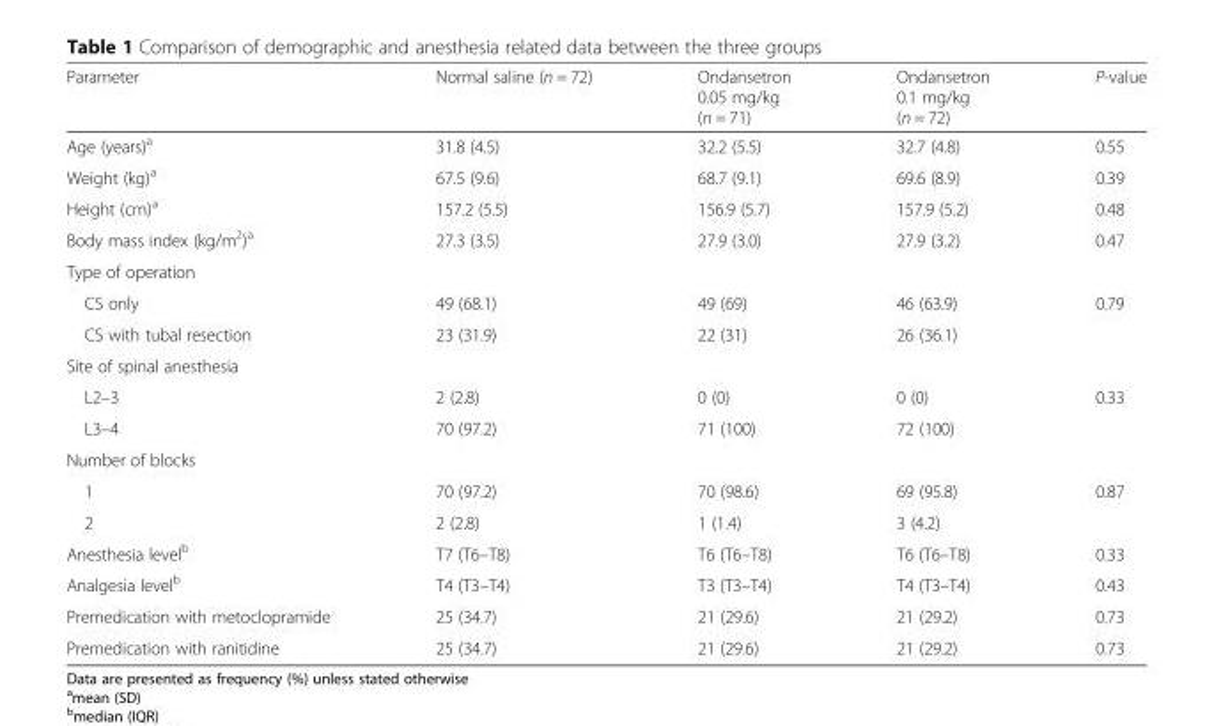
<table><thead><tr><td>Parameter</td><td>Normal saline (n = 72)</td><td>Ondansetron 0.05 mg/kg (n = 71)</td><td>Ondansetron 0.1 mg/kg (n = 72)</td><td>P-value</td></tr></thead><tbody><tr><td>Age (years)<sup>a</sup></td><td>31.8 (4.5)</td><td>32.2 (5.5)</td><td>32.7 (4.8)</td><td>0.55</td></tr><tr><td>Weight (kg)<sup>a</sup></td><td>67.5 (9.6)</td><td>68.7 (9.1)</td><td>69.6 (8.9)</td><td>0.39</td></tr><tr><td>Height (cm)<sup>a</sup></td><td>157.2 (5.5)</td><td>156.9 (5.7)</td><td>157.9 (5.2)</td><td>0.48</td></tr><tr><td>Body mass index (kg/m<sup>2</sup>)<sup>a</sup></td><td>27.3 (3.5)</td><td>27.9 (3.0)</td><td>27.9 (3.2)</td><td>0.47</td></tr><tr><td colspan="5">Type of operation</td></tr><tr><td>CS only</td><td>49 (68.1)</td><td>49 (69)</td><td>46 (63.9)</td><td>0.79</td></tr><tr><td>CS with tubal resection</td><td>23 (31.9)</td><td>22 (31)</td><td>26 (36.1)</td><td></td></tr><tr><td colspan="5">Site of spinal anesthesia</td></tr><tr><td>L2–3</td><td>2 (2.8)</td><td>0 (0)</td><td>0 (0)</td><td>0.33</td></tr><tr><td>L3–4</td><td>70 (97.2)</td><td>71 (100)</td><td>72 (100)</td><td></td></tr><tr><td colspan="5">Number of blocks</td></tr><tr><td>1</td><td>70 (97.2)</td><td>70 (98.6)</td><td>69 (95.8)</td><td>0.87</td></tr><tr><td>2</td><td>2 (2.8)</td><td>1 (1.4)</td><td>3 (4.2)</td><td></td></tr><tr><td>Anesthesia level<sup>b</sup></td><td>T7 (T6–T8)</td><td>T6 (T6–T8)</td><td>T6 (T6–T8)</td><td>0.33</td></tr><tr><td>Analgesia level<sup>b</sup></td><td>T4 (T3–T4)</td><td>T3 (T3–T4)</td><td>T4 (T3–T4)</td><td>0.43</td></tr><tr><td>Premedication with metoclopramide</td><td>25 (34.7)</td><td>21 (29.6)</td><td>21 (29.2)</td><td>0.73</td></tr><tr><td>Premedication with ranitidine</td><td>25 (34.7)</td><td>21 (29.6)</td><td>21 (29.2)</td><td>0.73</td></tr></tbody></table>